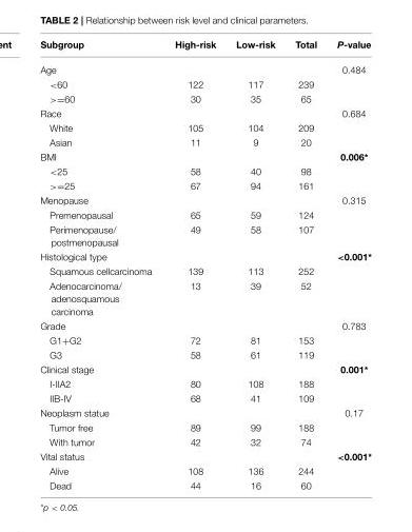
<table><thead><tr><td>Subgroup</td><td>High-risk</td><td>Low-risk</td><td>Total</td><td>P-value</td></tr></thead><tbody><tr><td>Age</td><td></td><td></td><td></td><td>0.484</td></tr><tr><td>&lt;60</td><td>122</td><td>117</td><td>239</td><td></td></tr><tr><td>&gt;=60</td><td>30</td><td>35</td><td>65</td><td></td></tr><tr><td>Race</td><td></td><td></td><td></td><td>0.684</td></tr><tr><td>White</td><td>105</td><td>104</td><td>209</td><td></td></tr><tr><td>Asian</td><td>11</td><td>9</td><td>20</td><td></td></tr><tr><td>BMI</td><td></td><td></td><td></td><td>0.006*</td></tr><tr><td>&lt;25</td><td>58</td><td>40</td><td>98</td><td></td></tr><tr><td>&gt;=25</td><td>67</td><td>94</td><td>161</td><td></td></tr><tr><td>Menopause</td><td></td><td></td><td></td><td>0.315</td></tr><tr><td>Premenopausal</td><td>65</td><td>59</td><td>124</td><td></td></tr><tr><td>Perimenopause/ postmenopausal</td><td>49</td><td>58</td><td>107</td><td></td></tr><tr><td>Histological type</td><td></td><td></td><td></td><td>&lt;0.001*</td></tr><tr><td>Squamous cellcarcinoma</td><td>139</td><td>113</td><td>252</td><td></td></tr><tr><td>Adenocarcinoma/ adenosquamous carcinoma</td><td>13</td><td>39</td><td>52</td><td></td></tr><tr><td>Grade</td><td></td><td></td><td></td><td>0.783</td></tr><tr><td>G1+G2</td><td>72</td><td>81</td><td>153</td><td></td></tr><tr><td>G3</td><td>58</td><td>61</td><td>119</td><td></td></tr><tr><td>Clinical stage</td><td></td><td></td><td></td><td>0.001*</td></tr><tr><td>I-IIA2</td><td>80</td><td>108</td><td>188</td><td></td></tr><tr><td>IIB-IV</td><td>68</td><td>41</td><td>109</td><td></td></tr><tr><td>Neoplasm statue</td><td></td><td></td><td></td><td>0.17</td></tr><tr><td>Tumor free</td><td>89</td><td>99</td><td>188</td><td></td></tr><tr><td>With tumor</td><td>42</td><td>32</td><td>74</td><td></td></tr><tr><td>Vital status</td><td></td><td></td><td></td><td>&lt;0.001*</td></tr><tr><td>Alive</td><td>108</td><td>136</td><td>244</td><td></td></tr><tr><td>Dead</td><td>44</td><td>16</td><td>60</td><td></td></tr></tbody></table>